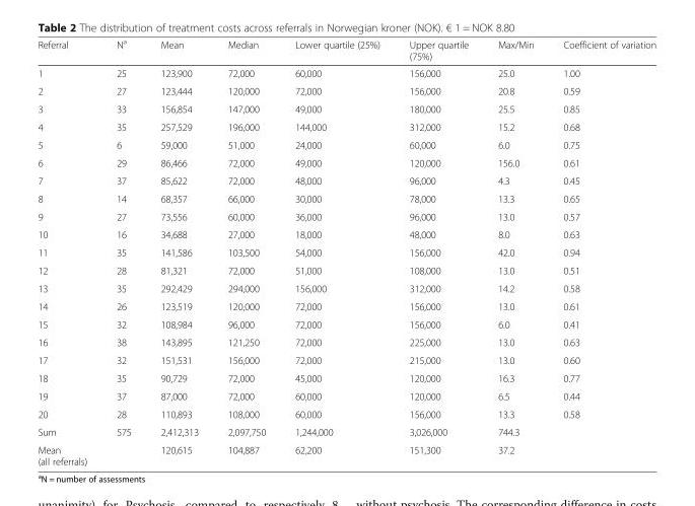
<table><thead><tr><td>Referral</td><td>N<sup>a</sup></td><td>Mean</td><td>Median</td><td>Lower quartile (25%)</td><td>Upper quartile (75%)</td><td>Max/Min</td><td>Coefficient of variation</td></tr></thead><tbody><tr><td>1</td><td>25</td><td>123,900</td><td>72,000</td><td>60,000</td><td>156,000</td><td>25.0</td><td>1.00</td></tr><tr><td>2</td><td>27</td><td>123,444</td><td>120,000</td><td>72,000</td><td>156,000</td><td>20.8</td><td>0.59</td></tr><tr><td>3</td><td>33</td><td>156,854</td><td>147,000</td><td>49,000</td><td>180,000</td><td>25.5</td><td>0.85</td></tr><tr><td>4</td><td>35</td><td>257,529</td><td>196,000</td><td>144,000</td><td>312,000</td><td>15.2</td><td>0.68</td></tr><tr><td>5</td><td>6</td><td>59,000</td><td>51,000</td><td>24,000</td><td>60,000</td><td>6.0</td><td>0.75</td></tr><tr><td>6</td><td>29</td><td>86,466</td><td>72,000</td><td>49,000</td><td>120,000</td><td>156.0</td><td>0.61</td></tr><tr><td>7</td><td>37</td><td>85,622</td><td>72,000</td><td>48,000</td><td>96,000</td><td>4.3</td><td>0.45</td></tr><tr><td>8</td><td>14</td><td>68,357</td><td>66,000</td><td>30,000</td><td>78,000</td><td>13.3</td><td>0.65</td></tr><tr><td>9</td><td>27</td><td>73,556</td><td>60,000</td><td>36,000</td><td>96,000</td><td>13.0</td><td>0.57</td></tr><tr><td>10</td><td>16</td><td>34,688</td><td>27,000</td><td>18,000</td><td>48,000</td><td>8.0</td><td>0.63</td></tr><tr><td>11</td><td>35</td><td>141,586</td><td>103,500</td><td>54,000</td><td>156,000</td><td>42.0</td><td>0.94</td></tr><tr><td>12</td><td>28</td><td>81,321</td><td>72,000</td><td>51,000</td><td>108,000</td><td>13.0</td><td>0.51</td></tr><tr><td>13</td><td>35</td><td>292,429</td><td>294,000</td><td>156,000</td><td>312,000</td><td>14.2</td><td>0.58</td></tr><tr><td>14</td><td>26</td><td>123,519</td><td>120,000</td><td>72,000</td><td>156,000</td><td>13.0</td><td>0.61</td></tr><tr><td>15</td><td>32</td><td>108,984</td><td>96,000</td><td>72,000</td><td>156,000</td><td>6.0</td><td>0.41</td></tr><tr><td>16</td><td>38</td><td>143,895</td><td>121,250</td><td>72,000</td><td>225,000</td><td>13.0</td><td>0.63</td></tr><tr><td>17</td><td>32</td><td>151,531</td><td>156,000</td><td>72,000</td><td>215,000</td><td>13.0</td><td>0.60</td></tr><tr><td>18</td><td>35</td><td>90,729</td><td>72,000</td><td>45,000</td><td>120,000</td><td>16.3</td><td>0.77</td></tr><tr><td>19</td><td>37</td><td>87,000</td><td>72,000</td><td>60,000</td><td>120,000</td><td>6.5</td><td>0.44</td></tr><tr><td>20</td><td>28</td><td>110,893</td><td>108,000</td><td>60,000</td><td>156,000</td><td>13.3</td><td>0.58</td></tr><tr><td>Sum</td><td>575</td><td>2,412,313</td><td>2,097,750</td><td>1,244,000</td><td>3,026,000</td><td>744.3</td><td></td></tr><tr><td>Mean (all referrals)</td><td></td><td>120,615</td><td>104,887</td><td>62,200</td><td>151,300</td><td>37.2</td><td></td></tr></tbody></table>